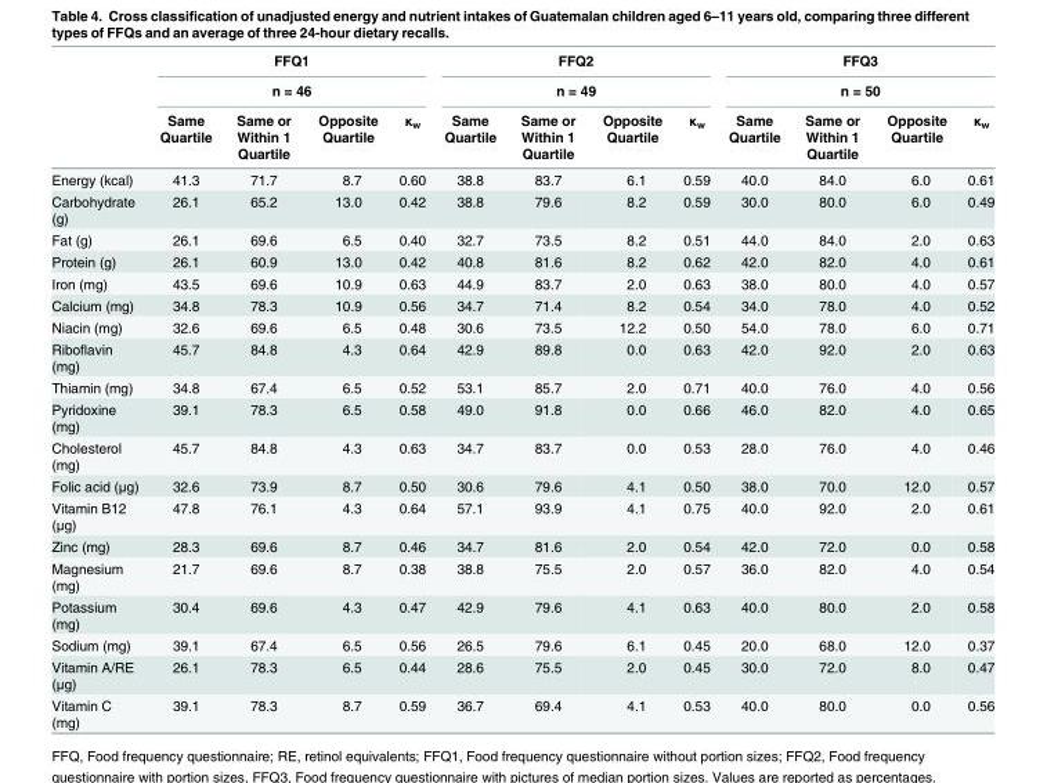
<table><thead><tr><td rowspan="3"></td><td rowspan="2" colspan="4">FFQ1 n = 46</td><td rowspan="2" colspan="4">FFQ2 n = 49</td><td rowspan="2" colspan="4">FFQ3 n = 50</td></tr><tr></tr><tr><td>Same Quartile</td><td>Same or Within 1 Quartile</td><td>Opposite Quartile</td><td>κ<sub>w</sub></td><td>Same Quartile</td><td>Same or Within 1 Quartile</td><td>Opposite Quartile</td><td>κ<sub>w</sub></td><td>Same Quartile</td><td>Same or Within 1 Quartile</td><td>Opposite Quartile</td><td>κ<sub>w</sub></td></tr></thead><tbody><tr><td>Energy (kcal)</td><td>41.3</td><td>71.7</td><td>8.7</td><td>0.60</td><td>38.8</td><td>83.7</td><td>6.1</td><td>0.59</td><td>40.0</td><td>84.0</td><td>6.0</td><td>0.61</td></tr><tr><td>Carbohydrate (g)</td><td>26.1</td><td>65.2</td><td>13.0</td><td>0.42</td><td>38.8</td><td>79.6</td><td>8.2</td><td>0.59</td><td>30.0</td><td>80.0</td><td>6.0</td><td>0.49</td></tr><tr><td>Fat (g)</td><td>26.1</td><td>69.6</td><td>6.5</td><td>0.40</td><td>32.7</td><td>73.5</td><td>8.2</td><td>0.51</td><td>44.0</td><td>84.0</td><td>2.0</td><td>0.63</td></tr><tr><td>Protein (g)</td><td>26.1</td><td>60.9</td><td>13.0</td><td>0.42</td><td>40.8</td><td>81.6</td><td>8.2</td><td>0.62</td><td>42.0</td><td>82.0</td><td>4.0</td><td>0.61</td></tr><tr><td>Iron (mg)</td><td>43.5</td><td>69.6</td><td>10.9</td><td>0.63</td><td>44.9</td><td>83.7</td><td>2.0</td><td>0.63</td><td>38.0</td><td>80.0</td><td>4.0</td><td>0.57</td></tr><tr><td>Calcium (mg)</td><td>34.8</td><td>78.3</td><td>10.9</td><td>0.56</td><td>34.7</td><td>71.4</td><td>8.2</td><td>0.54</td><td>34.0</td><td>78.0</td><td>4.0</td><td>0.52</td></tr><tr><td>Niacin (mg)</td><td>32.6</td><td>69.6</td><td>6.5</td><td>0.48</td><td>30.6</td><td>73.5</td><td>12.2</td><td>0.50</td><td>54.0</td><td>78.0</td><td>6.0</td><td>0.71</td></tr><tr><td>Riboflavin (mg)</td><td>45.7</td><td>84.8</td><td>4.3</td><td>0.64</td><td>42.9</td><td>89.8</td><td>0.0</td><td>0.63</td><td>42.0</td><td>92.0</td><td>2.0</td><td>0.63</td></tr><tr><td>Thiamin (mg)</td><td>34.8</td><td>67.4</td><td>6.5</td><td>0.52</td><td>53.1</td><td>85.7</td><td>2.0</td><td>0.71</td><td>40.0</td><td>76.0</td><td>4.0</td><td>0.56</td></tr><tr><td>Pyridoxine (mg)</td><td>39.1</td><td>78.3</td><td>6.5</td><td>0.58</td><td>49.0</td><td>91.8</td><td>0.0</td><td>0.66</td><td>46.0</td><td>82.0</td><td>4.0</td><td>0.65</td></tr><tr><td>Cholesterol (mg)</td><td>45.7</td><td>84.8</td><td>4.3</td><td>0.63</td><td>34.7</td><td>83.7</td><td>0.0</td><td>0.53</td><td>28.0</td><td>76.0</td><td>4.0</td><td>0.46</td></tr><tr><td>Folic acid (μg)</td><td>32.6</td><td>73.9</td><td>8.7</td><td>0.50</td><td>30.6</td><td>79.6</td><td>4.1</td><td>0.50</td><td>38.0</td><td>70.0</td><td>12.0</td><td>0.57</td></tr><tr><td>Vitamin B12 (μg)</td><td>47.8</td><td>76.1</td><td>4.3</td><td>0.64</td><td>57.1</td><td>93.9</td><td>4.1</td><td>0.75</td><td>40.0</td><td>92.0</td><td>2.0</td><td>0.61</td></tr><tr><td>Zinc (mg)</td><td>28.3</td><td>69.6</td><td>8.7</td><td>0.46</td><td>34.7</td><td>81.6</td><td>2.0</td><td>0.54</td><td>42.0</td><td>72.0</td><td>0.0</td><td>0.58</td></tr><tr><td>Magnesium (mg)</td><td>21.7</td><td>69.6</td><td>8.7</td><td>0.38</td><td>38.8</td><td>75.5</td><td>2.0</td><td>0.57</td><td>36.0</td><td>82.0</td><td>4.0</td><td>0.54</td></tr><tr><td>Potassium (mg)</td><td>30.4</td><td>69.6</td><td>4.3</td><td>0.47</td><td>42.9</td><td>79.6</td><td>4.1</td><td>0.63</td><td>40.0</td><td>80.0</td><td>2.0</td><td>0.58</td></tr><tr><td>Sodium (mg)</td><td>39.1</td><td>67.4</td><td>6.5</td><td>0.56</td><td>26.5</td><td>79.6</td><td>6.1</td><td>0.45</td><td>20.0</td><td>68.0</td><td>12.0</td><td>0.37</td></tr><tr><td>Vitamin A/RE (μg)</td><td>26.1</td><td>78.3</td><td>6.5</td><td>0.44</td><td>28.6</td><td>75.5</td><td>2.0</td><td>0.45</td><td>30.0</td><td>72.0</td><td>8.0</td><td>0.47</td></tr><tr><td>Vitamin C (mg)</td><td>39.1</td><td>78.3</td><td>8.7</td><td>0.59</td><td>36.7</td><td>69.4</td><td>4.1</td><td>0.53</td><td>40.0</td><td>80.0</td><td>0.0</td><td>0.56</td></tr></tbody></table>